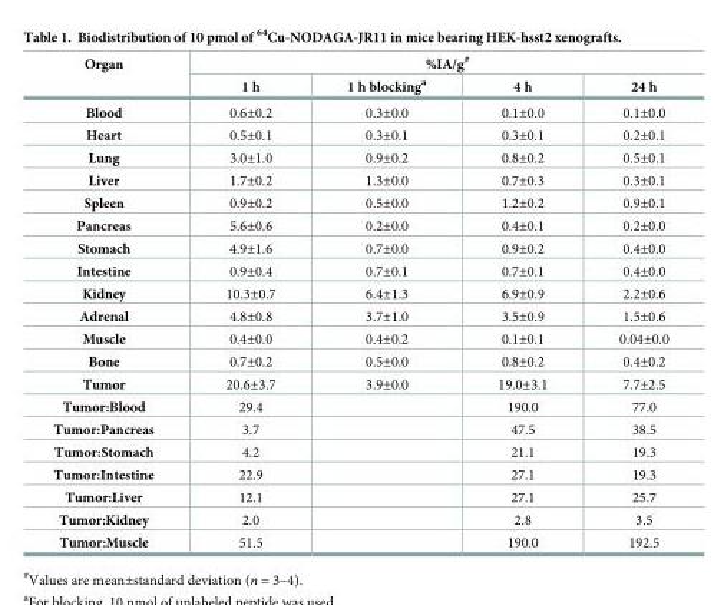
<table><thead><tr><td rowspan="2">Organ</td><td colspan="4">%IA/g<sup>#</sup></td></tr><tr><td>1 h</td><td>1 h blocking<sup>a</sup></td><td>4 h</td><td>24 h</td></tr></thead><tbody><tr><td>Blood</td><td>0.6±0.2</td><td>0.3±0.0</td><td>0.1±0.0</td><td>0.1±0.0</td></tr><tr><td>Heart</td><td>0.5±0.1</td><td>0.3±0.1</td><td>0.3±0.1</td><td>0.2±0.1</td></tr><tr><td>Lung</td><td>3.0±1.0</td><td>0.9±0.2</td><td>0.8±0.2</td><td>0.5±0.1</td></tr><tr><td>Liver</td><td>1.7±0.2</td><td>1.3±0.0</td><td>0.7±0.3</td><td>0.3±0.1</td></tr><tr><td>Spleen</td><td>0.9±0.2</td><td>0.5±0.0</td><td>1.2±0.2</td><td>0.9±0.1</td></tr><tr><td>Pancreas</td><td>5.6±0.6</td><td>0.2±0.0</td><td>0.4±0.1</td><td>0.2±0.0</td></tr><tr><td>Stomach</td><td>4.9±1.6</td><td>0.7±0.0</td><td>0.9±0.2</td><td>0.4±0.0</td></tr><tr><td>Intestine</td><td>0.9±0.4</td><td>0.7±0.1</td><td>0.7±0.1</td><td>0.4±0.0</td></tr><tr><td>Kidney</td><td>10.3±0.7</td><td>6.4±1.3</td><td>6.9±0.9</td><td>2.2±0.6</td></tr><tr><td>Adrenal</td><td>4.8±0.8</td><td>3.7±1.0</td><td>3.5±0.9</td><td>1.5±0.6</td></tr><tr><td>Muscle</td><td>0.4±0.0</td><td>0.4±0.2</td><td>0.1±0.1</td><td>0.04±0.0</td></tr><tr><td>Bone</td><td>0.7±0.2</td><td>0.5±0.0</td><td>0.8±0.2</td><td>0.4±0.2</td></tr><tr><td>Tumor</td><td>20.6±3.7</td><td>3.9±0.0</td><td>19.0±3.1</td><td>7.7±2.5</td></tr><tr><td>Tumor:Blood</td><td>29.4</td><td></td><td>190.0</td><td>77.0</td></tr><tr><td>Tumor:Pancreas</td><td>3.7</td><td></td><td>47.5</td><td>38.5</td></tr><tr><td>Tumor:Stomach</td><td>4.2</td><td></td><td>21.1</td><td>19.3</td></tr><tr><td>Tumor:Intestine</td><td>22.9</td><td></td><td>27.1</td><td>19.3</td></tr><tr><td>Tumor:Liver</td><td>12.1</td><td></td><td>27.1</td><td>25.7</td></tr><tr><td>Tumor:Kidney</td><td>2.0</td><td></td><td>2.8</td><td>3.5</td></tr><tr><td>Tumor:Muscle</td><td>51.5</td><td></td><td>190.0</td><td>192.5</td></tr></tbody></table>